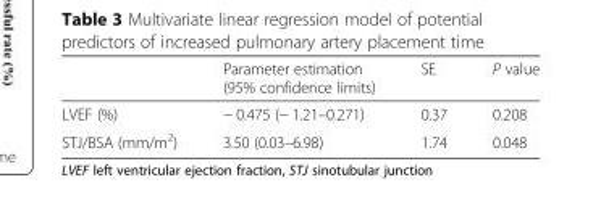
<table><thead><tr><td></td><td>Parameter estimation (95% confidence limits)</td><td>SE</td><td>P value</td></tr></thead><tbody><tr><td>LVEF (%)</td><td>− 0.475 (− 1.21–0.271)</td><td>0.37</td><td>0.208</td></tr><tr><td>STJ/BSA (mm/m<sup>2</sup>)</td><td>3.50 (0.03–6.98)</td><td>1.74</td><td>0.048</td></tr></tbody></table>